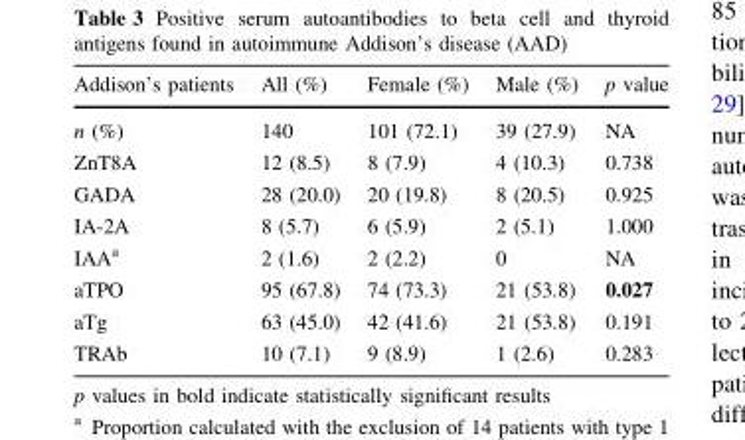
<table><thead><tr><td>Addison’s patients</td><td>All (%)</td><td>Female (%)</td><td>Male (%)</td><td>p value</td></tr></thead><tbody><tr><td>n (%)</td><td>140</td><td>101 (72.1)</td><td>39 (27.9)</td><td>NA</td></tr><tr><td>ZnT8A</td><td>12 (8.5)</td><td>8 (7.9)</td><td>4 (10.3)</td><td>0.738</td></tr><tr><td>GADA</td><td>28 (20.0)</td><td>20 (19.8)</td><td>8 (20.5)</td><td>0.925</td></tr><tr><td>IA-2A</td><td>8 (5.7)</td><td>6 (5.9)</td><td>2 (5.1)</td><td>1.000</td></tr><tr><td>IAA<sup>a</sup></td><td>2 (1.6)</td><td>2 (2.2)</td><td>0</td><td>NA</td></tr><tr><td>aTPO</td><td>95 (67.8)</td><td>74 (73.3)</td><td>21 (53.8)</td><td>0.027</td></tr><tr><td>aTg</td><td>63 (45.0)</td><td>42 (41.6)</td><td>21 (53.8)</td><td>0.191</td></tr><tr><td>TRAb</td><td>10 (7.1)</td><td>9 (8.9)</td><td>1 (2.6)</td><td>0.283</td></tr></tbody></table>